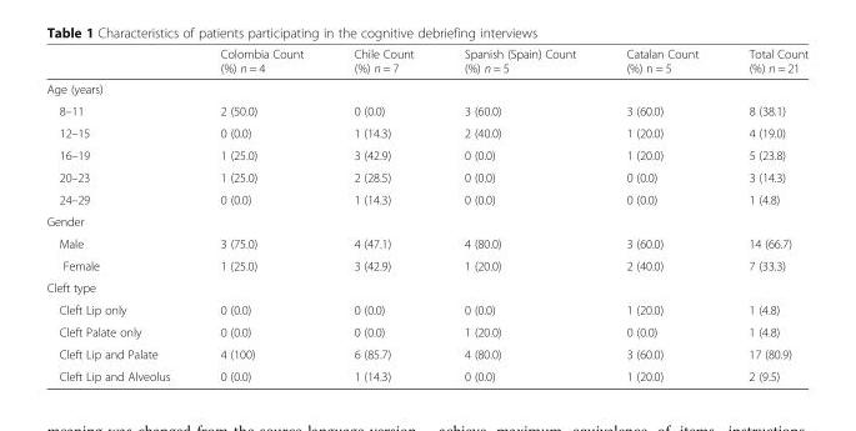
<table><thead><tr><td></td><td>Colombia Count (%) n = 4</td><td>Chile Count (%) n = 7</td><td>Spanish (Spain) Count (%) n = 5</td><td>Catalan Count (%) n = 5</td><td>Total Count (%) n = 21</td></tr></thead><tbody><tr><td colspan="6">Age (years)</td></tr><tr><td>8–11</td><td>2 (50.0)</td><td>0 (0.0)</td><td>3 (60.0)</td><td>3 (60.0)</td><td>8 (38.1)</td></tr><tr><td>12–15</td><td>0 (0.0)</td><td>1 (14.3)</td><td>2 (40.0)</td><td>1 (20.0)</td><td>4 (19.0)</td></tr><tr><td>16–19</td><td>1 (25.0)</td><td>3 (42.9)</td><td>0 (0.0)</td><td>1 (20.0)</td><td>5 (23.8)</td></tr><tr><td>20–23</td><td>1 (25.0)</td><td>2 (28.5)</td><td>0 (0.0)</td><td>0 (0.0)</td><td>3 (14.3)</td></tr><tr><td>24–29</td><td>0 (0.0)</td><td>1 (14.3)</td><td>0 (0.0)</td><td>0 (0.0)</td><td>1 (4.8)</td></tr><tr><td colspan="6">Gender</td></tr><tr><td>Male</td><td>3 (75.0)</td><td>4 (47.1)</td><td>4 (80.0)</td><td>3 (60.0)</td><td>14 (66.7)</td></tr><tr><td>Female</td><td>1 (25.0)</td><td>3 (42.9)</td><td>1 (20.0)</td><td>2 (40.0)</td><td>7 (33.3)</td></tr><tr><td colspan="6">Cleft type</td></tr><tr><td>Cleft Lip only</td><td>0 (0.0)</td><td>0 (0.0)</td><td>0 (0.0)</td><td>1 (20.0)</td><td>1 (4.8)</td></tr><tr><td>Cleft Palate only</td><td>0 (0.0)</td><td>0 (0.0)</td><td>1 (20.0)</td><td>0 (0.0)</td><td>1 (4.8)</td></tr><tr><td>Cleft Lip and Palate</td><td>4 (100)</td><td>6 (85.7)</td><td>4 (80.0)</td><td>3 (60.0)</td><td>17 (80.9)</td></tr><tr><td>Cleft Lip and Alveolus</td><td>0 (0.0)</td><td>1 (14.3)</td><td>0 (0.0)</td><td>1 (20.0)</td><td>2 (9.5)</td></tr></tbody></table>